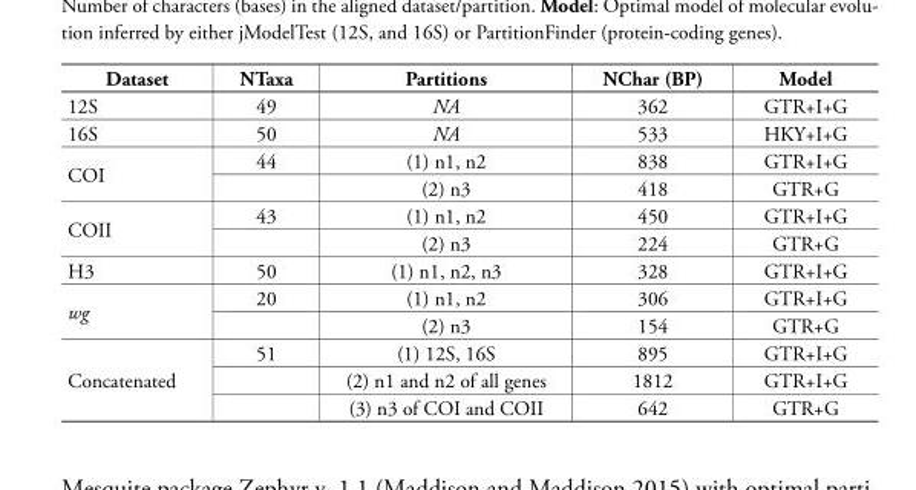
<table><thead><tr><td>Dataset</td><td>NTaxa</td><td>Partitions</td><td>NChar (BP)</td><td>Model</td></tr></thead><tbody><tr><td>12S</td><td>49</td><td>NA</td><td>362</td><td>GTR+I+G</td></tr><tr><td>16S</td><td>50</td><td>NA</td><td>533</td><td>HKY+I+G</td></tr><tr><td rowspan="2">COI</td><td>44</td><td>(1) n1, n2</td><td>838</td><td>GTR+I+G</td></tr><tr><td></td><td>(2) n3</td><td>418</td><td>GTR+G</td></tr><tr><td rowspan="2">COII</td><td>43</td><td>(1) n1, n2</td><td>450</td><td>GTR+I+G</td></tr><tr><td></td><td>(2) n3</td><td>224</td><td>GTR+G</td></tr><tr><td>H3</td><td>50</td><td>(1) n1, n2, n3</td><td>328</td><td>GTR+I+G</td></tr><tr><td rowspan="2">wg</td><td>20</td><td>(1) n1, n2</td><td>306</td><td>GTR+I+G</td></tr><tr><td></td><td>(2) n3</td><td>154</td><td>GTR+G</td></tr><tr><td rowspan="3">Concatenated</td><td>51</td><td>(1) 12S, 16S</td><td>895</td><td>GTR+I+G</td></tr><tr><td></td><td>(2) n1 and n2 of all genes</td><td>1812</td><td>GTR+I+G</td></tr><tr><td></td><td>(3) n3 of COI and COII</td><td>642</td><td>GTR+G</td></tr></tbody></table>